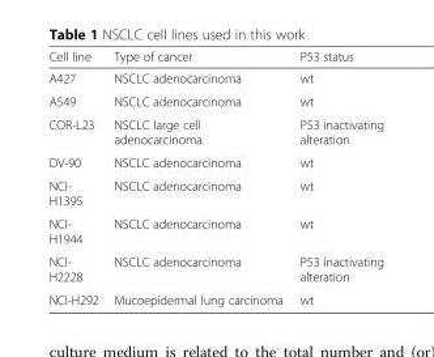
<table><thead><tr><td>Cell line</td><td>Type of cancer</td><td>P53 status</td></tr></thead><tbody><tr><td>A427</td><td>NSCLC adenocarcinoma</td><td>wt</td></tr><tr><td>A549</td><td>NSCLC adenocarcinoma</td><td>wt</td></tr><tr><td>COR-L23</td><td>NSCLC large cell adenocarcinoma</td><td>P53 inactivating alteration</td></tr><tr><td>DV-90</td><td>NSCLC adenocarcinoma</td><td>wt</td></tr><tr><td>NCI- H1395</td><td>NSCLC adenocarcinoma</td><td>wt</td></tr><tr><td>NCI- H1944</td><td>NSCLC adenocarcinoma</td><td>wt</td></tr><tr><td>NCI- H2228</td><td>NSCLC adenocarcinoma</td><td>P53 inactivating alteration</td></tr><tr><td>NCI-H292</td><td>Mucoepidermal lung carcinoma</td><td>wt</td></tr></tbody></table>